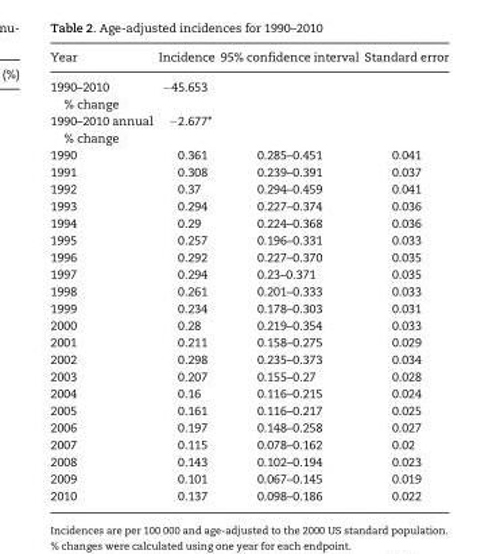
<table><thead><tr><td>Year</td><td>Incidence</td><td>95% confidence interval</td><td>Standard error</td></tr></thead><tbody><tr><td>1990–2010 % change</td><td>−45.653</td><td></td><td></td></tr><tr><td>1990–2010 annual % change</td><td>−2.677*</td><td></td><td></td></tr><tr><td>1990</td><td>0.361</td><td>0.285–0.451</td><td>0.041</td></tr><tr><td>1991</td><td>0.308</td><td>0.239–0.391</td><td>0.037</td></tr><tr><td>1992</td><td>0.37</td><td>0.294–0.459</td><td>0.041</td></tr><tr><td>1993</td><td>0.294</td><td>0.227–0.374</td><td>0.036</td></tr><tr><td>1994</td><td>0.29</td><td>0.224–0.368</td><td>0.036</td></tr><tr><td>1995</td><td>0.257</td><td>0.196–0.331</td><td>0.033</td></tr><tr><td>1996</td><td>0.292</td><td>0.227–0.370</td><td>0.035</td></tr><tr><td>1997</td><td>0.294</td><td>0.23–0.371</td><td>0.035</td></tr><tr><td>1998</td><td>0.261</td><td>0.201–0.333</td><td>0.033</td></tr><tr><td>1999</td><td>0.234</td><td>0.178–0.303</td><td>0.031</td></tr><tr><td>2000</td><td>0.28</td><td>0.219–0.354</td><td>0.033</td></tr><tr><td>2001</td><td>0.211</td><td>0.158–0.275</td><td>0.029</td></tr><tr><td>2002</td><td>0.298</td><td>0.235–0.373</td><td>0.034</td></tr><tr><td>2003</td><td>0.207</td><td>0.155–0.27</td><td>0.028</td></tr><tr><td>2004</td><td>0.16</td><td>0.116–0.215</td><td>0.024</td></tr><tr><td>2005</td><td>0.161</td><td>0.116–0.217</td><td>0.025</td></tr><tr><td>2006</td><td>0.197</td><td>0.148–0.258</td><td>0.027</td></tr><tr><td>2007</td><td>0.115</td><td>0.078–0.162</td><td>0.02</td></tr><tr><td>2008</td><td>0.143</td><td>0.102–0.194</td><td>0.023</td></tr><tr><td>2009</td><td>0.101</td><td>0.067–0.145</td><td>0.019</td></tr><tr><td>2010</td><td>0.137</td><td>0.098–0.186</td><td>0.022</td></tr></tbody></table>